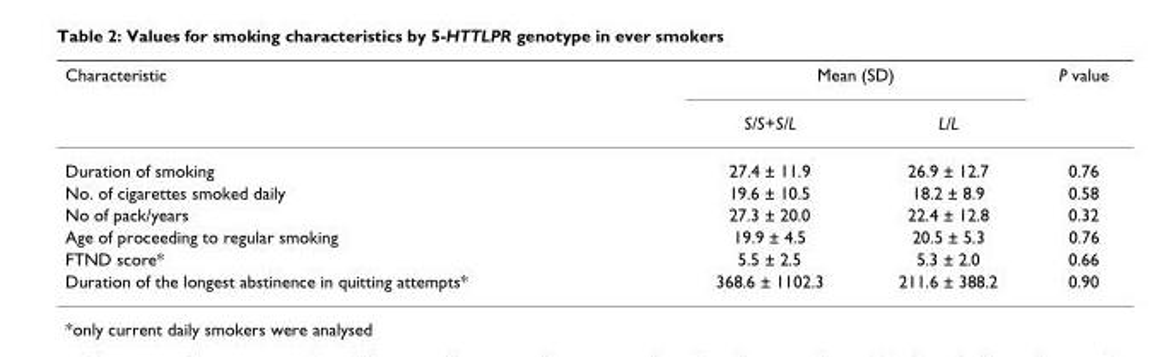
<table><thead><tr><td rowspan="2">Characteristic</td><td colspan="2">Mean (SD)</td><td rowspan="2">P value</td></tr><tr><td>S/S+S/L</td><td>L/L</td></tr></thead><tbody><tr><td>Duration of smoking</td><td>27.4 ± 11.9</td><td>26.9 ± 12.7</td><td>0.76</td></tr><tr><td>No. of cigarettes smoked daily</td><td>19.6 ± 10.5</td><td>18.2 ± 8.9</td><td>0.58</td></tr><tr><td>No of pack/years</td><td>27.3 ± 20.0</td><td>22.4 ± 12.8</td><td>0.32</td></tr><tr><td>Age of proceeding to regular smoking</td><td>19.9 ± 4.5</td><td>20.5 ± 5.3</td><td>0.76</td></tr><tr><td>FTND score*</td><td>5.5 ± 2.5</td><td>5.3 ± 2.0</td><td>0.66</td></tr><tr><td>Duration of the longest abstinence in quitting attempts*</td><td>368.6 ± 1102.3</td><td>211.6 ± 388.2</td><td>0.90</td></tr></tbody></table>